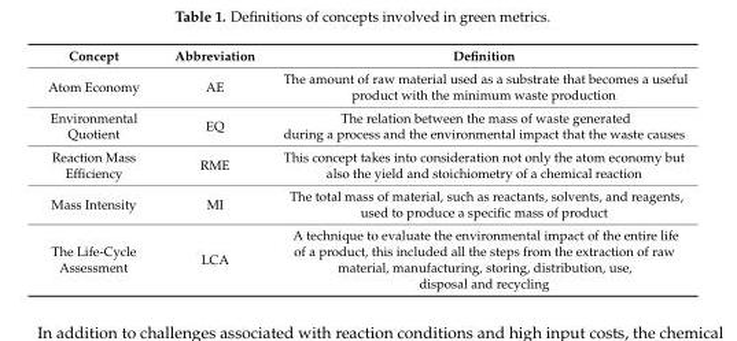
<table><thead><tr><td>Concept</td><td>Abbreviation</td><td>Definition</td></tr></thead><tbody><tr><td>Atom Economy</td><td>AE</td><td>The amount of raw material used as a substrate that becomes a useful product with the minimum waste production</td></tr><tr><td>Environmental Quotient</td><td>EQ</td><td>The relation between the mass of waste generated during a process and the environmental impact that the waste causes</td></tr><tr><td>Reaction Mass Efficiency</td><td>RME</td><td>This concept takes into consideration not only the atom economy but also the yield and stoichiometry of a chemical reaction</td></tr><tr><td>Mass Intensity</td><td>MI</td><td>The total mass of material, such as reactants, solvents, and reagents, used to produce a specific mass of product</td></tr><tr><td>The Life-Cycle Assessment</td><td>LCA</td><td>A technique to evaluate the environmental impact of the entire life of a product, this included all the steps from the extraction of raw material, manufacturing, storing, distribution, use, disposal and recycling</td></tr></tbody></table>